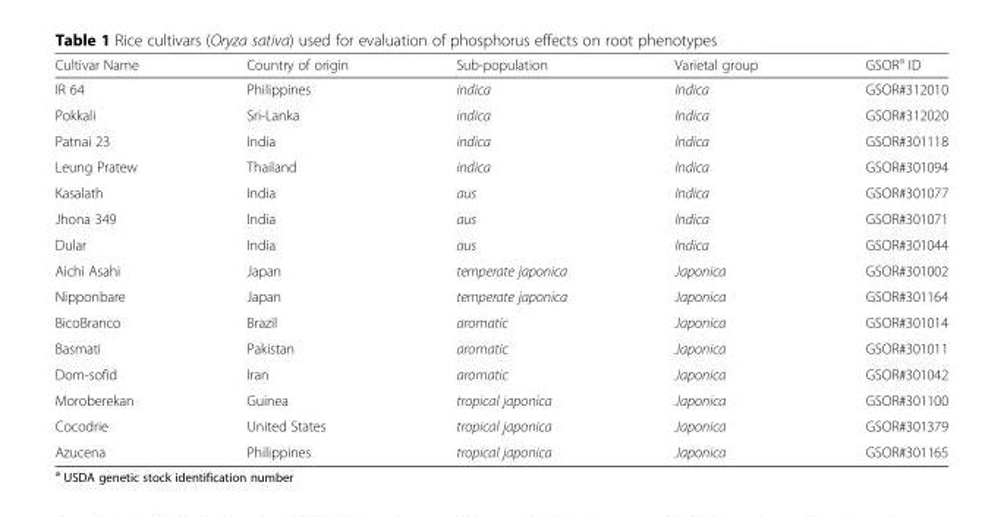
<table><thead><tr><td>Cultivar Name</td><td>Country of origin</td><td>Sub-population</td><td>Varietal group</td><td>GSOR<sup>a</sup> ID</td></tr></thead><tbody><tr><td>IR 64</td><td>Philippines</td><td>indica</td><td>Indica</td><td>GSOR#312010</td></tr><tr><td>Pokkali</td><td>Sri-Lanka</td><td>indica</td><td>Indica</td><td>GSOR#312020</td></tr><tr><td>Patnai 23</td><td>India</td><td>indica</td><td>Indica</td><td>GSOR#301118</td></tr><tr><td>Leung Pratew</td><td>Thailand</td><td>indica</td><td>Indica</td><td>GSOR#301094</td></tr><tr><td>Kasalath</td><td>India</td><td>aus</td><td>Indica</td><td>GSOR#301077</td></tr><tr><td>Jhona 349</td><td>India</td><td>aus</td><td>Indica</td><td>GSOR#301071</td></tr><tr><td>Dular</td><td>India</td><td>aus</td><td>Indica</td><td>GSOR#301044</td></tr><tr><td>Aichi Asahi</td><td>Japan</td><td>temperate japonica</td><td>Japonica</td><td>GSOR#301002</td></tr><tr><td>Nipponbare</td><td>Japan</td><td>temperate japonica</td><td>Japonica</td><td>GSOR#301164</td></tr><tr><td>BicoBranco</td><td>Brazil</td><td>aromatic</td><td>Japonica</td><td>GSOR#301014</td></tr><tr><td>Basmati</td><td>Pakistan</td><td>aromatic</td><td>Japonica</td><td>GSOR#301011</td></tr><tr><td>Dom-sofid</td><td>Iran</td><td>aromatic</td><td>Japonica</td><td>GSOR#301042</td></tr><tr><td>Moroberekan</td><td>Guinea</td><td>tropical japonica</td><td>Japonica</td><td>GSOR#301100</td></tr><tr><td>Cocodrie</td><td>United States</td><td>tropical japonica</td><td>Japonica</td><td>GSOR#301379</td></tr><tr><td>Azucena</td><td>Philippines</td><td>tropical japonica</td><td>Japonica</td><td>GSOR#301165</td></tr></tbody></table>